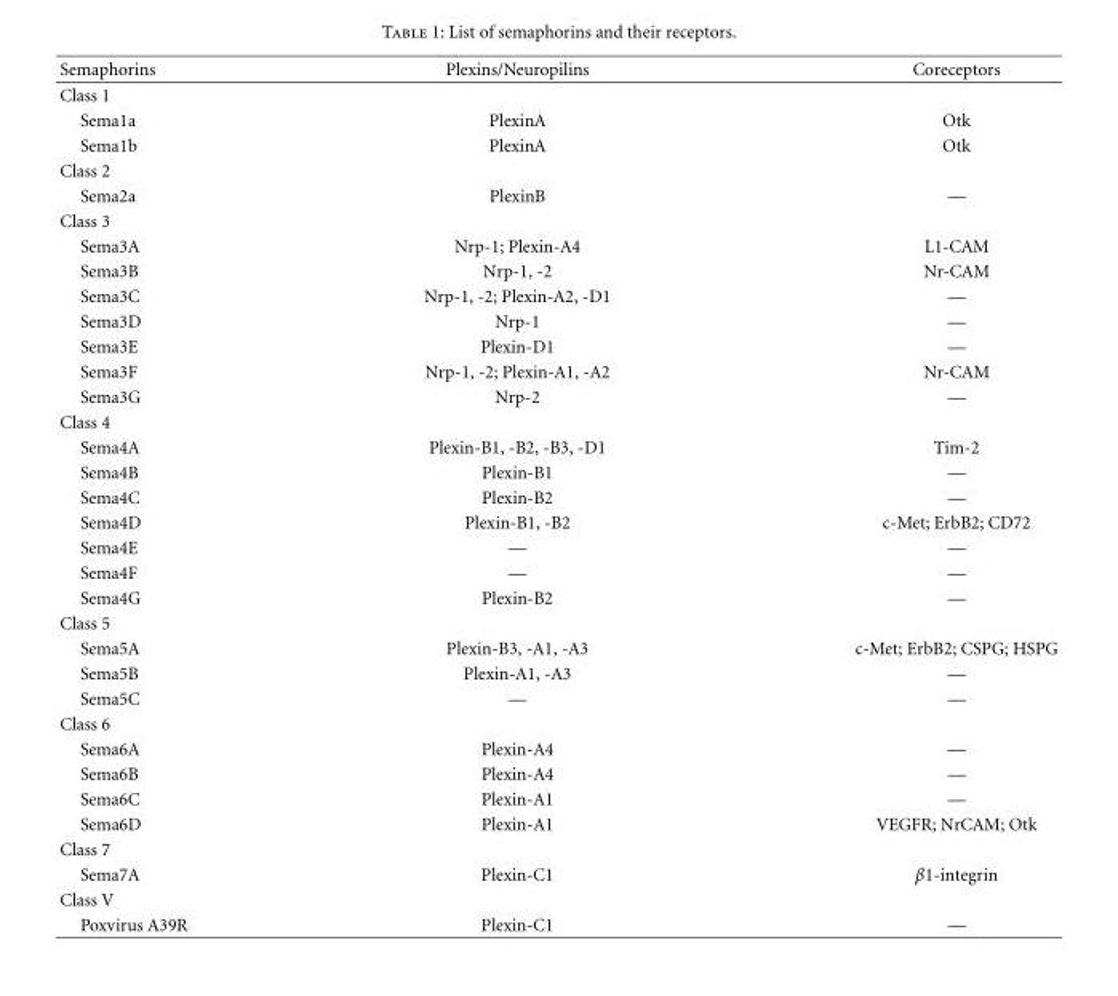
<table><thead><tr><td>Semaphorins</td><td>Plexins/Neuropilins</td><td>Coreceptors</td></tr></thead><tbody><tr><td colspan="3">Class 1</td></tr><tr><td>Sema1a</td><td>PlexinA</td><td>Otk</td></tr><tr><td>Sema1b</td><td>PlexinA</td><td>Otk</td></tr><tr><td colspan="3">Class 2</td></tr><tr><td>Sema2a</td><td>PlexinB</td><td>—</td></tr><tr><td colspan="3">Class 3</td></tr><tr><td>Sema3A</td><td>Nrp-1; Plexin-A4</td><td>L1-CAM</td></tr><tr><td>Sema3B</td><td>Nrp-1, -2</td><td>Nr-CAM</td></tr><tr><td>Sema3C</td><td>Nrp-1, -2; Plexin-A2, -D1</td><td>—</td></tr><tr><td>Sema3D</td><td>Nrp-1</td><td>—</td></tr><tr><td>Sema3E</td><td>Plexin-D1</td><td>—</td></tr><tr><td>Sema3F</td><td>Nrp-1, -2; Plexin-A1, -A2</td><td>Nr-CAM</td></tr><tr><td>Sema3G</td><td>Nrp-2</td><td>—</td></tr><tr><td colspan="3">Class 4</td></tr><tr><td>Sema4A</td><td>Plexin-B1, -B2, -B3, -D1</td><td>Tim-2</td></tr><tr><td>Sema4B</td><td>Plexin-B1</td><td>—</td></tr><tr><td>Sema4C</td><td>Plexin-B2</td><td>—</td></tr><tr><td>Sema4D</td><td>Plexin-B1, -B2</td><td>c-Met; ErbB2; CD72</td></tr><tr><td>Sema4E</td><td>—</td><td>—</td></tr><tr><td>Sema4F</td><td>—</td><td>—</td></tr><tr><td>Sema4G</td><td>Plexin-B2</td><td>—</td></tr><tr><td colspan="3">Class 5</td></tr><tr><td>Sema5A</td><td>Plexin-B3, -A1, -A3</td><td>c-Met; ErbB2; CSPG; HSPG</td></tr><tr><td>Sema5B</td><td>Plexin-A1, -A3</td><td>—</td></tr><tr><td>Sema5C</td><td>—</td><td>—</td></tr><tr><td colspan="3">Class 6</td></tr><tr><td>Sema6A</td><td>Plexin-A4</td><td>—</td></tr><tr><td>Sema6B</td><td>Plexin-A4</td><td>—</td></tr><tr><td>Sema6C</td><td>Plexin-A1</td><td>—</td></tr><tr><td>Sema6D</td><td>Plexin-A1</td><td>VEGFR; NrCAM; Otk</td></tr><tr><td colspan="3">Class 7</td></tr><tr><td>Sema7A</td><td>Plexin-C1</td><td>β1-integrin</td></tr><tr><td colspan="3">Class V</td></tr><tr><td>Poxvirus A39R</td><td>Plexin-C1</td><td>—</td></tr></tbody></table>